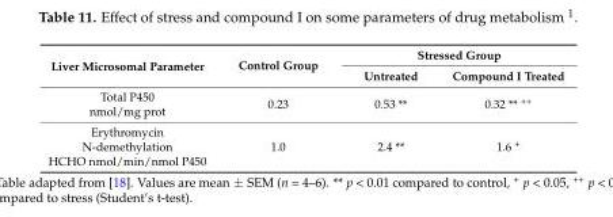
<table><thead><tr><td rowspan="2">Liver Microsomal Parameter</td><td rowspan="2">Control Group</td><td colspan="2">Stressed Group</td></tr><tr><td>Untreated</td><td>Compound I Treated</td></tr></thead><tbody><tr><td>Total P450 nmol/mg prot</td><td>0.23</td><td>0.53 **</td><td>0.32 ** <sup>++</sup></td></tr><tr><td>Erythromycin N-demethylation HCHO nmol/min/nmol P450</td><td>1.0</td><td>2.4 **</td><td>1.6 <sup>+</sup></td></tr></tbody></table>